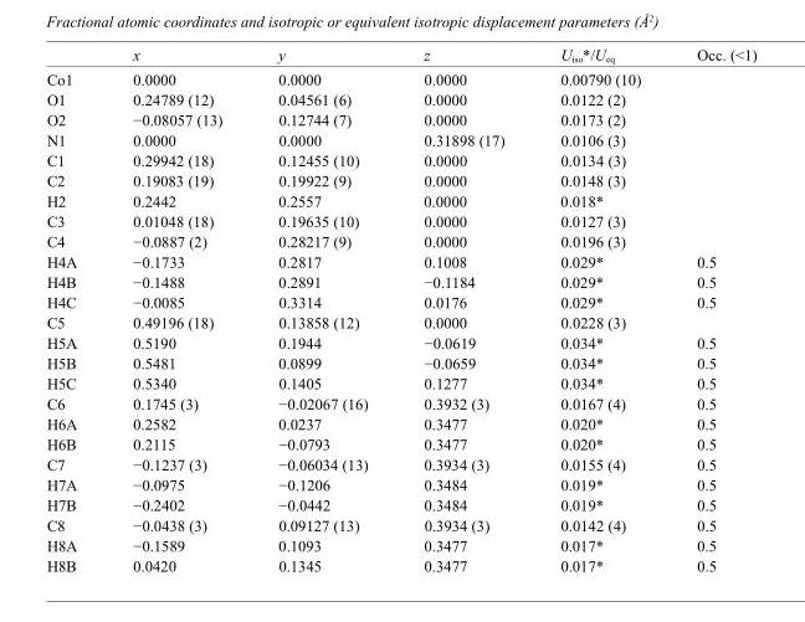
<table><thead><tr><td></td><td>x</td><td>y</td><td>z</td><td>U<sub>iso</sub>*/U<sub>eq</sub></td><td>Occ. (&lt;1)</td></tr></thead><tbody><tr><td>Co1</td><td>0.0000</td><td>0.0000</td><td>0.0000</td><td>0.00790 (10)</td><td></td></tr><tr><td>O1</td><td>0.24789 (12)</td><td>0.04561 (6)</td><td>0.0000</td><td>0.0122 (2)</td><td></td></tr><tr><td>O2</td><td>−0.08057 (13)</td><td>0.12744 (7)</td><td>0.0000</td><td>0.0173 (2)</td><td></td></tr><tr><td>N1</td><td>0.0000</td><td>0.0000</td><td>0.31898 (17)</td><td>0.0106 (3)</td><td></td></tr><tr><td>C1</td><td>0.29942 (18)</td><td>0.12455 (10)</td><td>0.0000</td><td>0.0134 (3)</td><td></td></tr><tr><td>C2</td><td>0.19083 (19)</td><td>0.19922 (9)</td><td>0.0000</td><td>0.0148 (3)</td><td></td></tr><tr><td>H2</td><td>0.2442</td><td>0.2557</td><td>0.0000</td><td>0.018*</td><td></td></tr><tr><td>C3</td><td>0.01048 (18)</td><td>0.19635 (10)</td><td>0.0000</td><td>0.0127 (3)</td><td></td></tr><tr><td>C4</td><td>−0.0887 (2)</td><td>0.28217 (9)</td><td>0.0000</td><td>0.0196 (3)</td><td></td></tr><tr><td>H4A</td><td>−0.1733</td><td>0.2817</td><td>0.1008</td><td>0.029*</td><td>0.5</td></tr><tr><td>H4B</td><td>−0.1488</td><td>0.2891</td><td>−0.1184</td><td>0.029*</td><td>0.5</td></tr><tr><td>H4C</td><td>−0.0085</td><td>0.3314</td><td>0.0176</td><td>0.029*</td><td>0.5</td></tr><tr><td>C5</td><td>0.49196 (18)</td><td>0.13858 (12)</td><td>0.0000</td><td>0.0228 (3)</td><td></td></tr><tr><td>H5A</td><td>0.5190</td><td>0.1944</td><td>−0.0619</td><td>0.034*</td><td>0.5</td></tr><tr><td>H5B</td><td>0.5481</td><td>0.0899</td><td>−0.0659</td><td>0.034*</td><td>0.5</td></tr><tr><td>H5C</td><td>0.5340</td><td>0.1405</td><td>0.1277</td><td>0.034*</td><td>0.5</td></tr><tr><td>C6</td><td>0.1745 (3)</td><td>−0.02067 (16)</td><td>0.3932 (3)</td><td>0.0167 (4)</td><td>0.5</td></tr><tr><td>H6A</td><td>0.2582</td><td>0.0237</td><td>0.3477</td><td>0.020*</td><td>0.5</td></tr><tr><td>H6B</td><td>0.2115</td><td>−0.0793</td><td>0.3477</td><td>0.020*</td><td>0.5</td></tr><tr><td>C7</td><td>−0.1237 (3)</td><td>−0.06034 (13)</td><td>0.3934 (3)</td><td>0.0155 (4)</td><td>0.5</td></tr><tr><td>H7A</td><td>−0.0975</td><td>−0.1206</td><td>0.3484</td><td>0.019*</td><td>0.5</td></tr><tr><td>H7B</td><td>−0.2402</td><td>−0.0442</td><td>0.3484</td><td>0.019*</td><td>0.5</td></tr><tr><td>C8</td><td>−0.0438 (3)</td><td>0.09127 (13)</td><td>0.3934 (3)</td><td>0.0142 (4)</td><td>0.5</td></tr><tr><td>H8A</td><td>−0.1589</td><td>0.1093</td><td>0.3477</td><td>0.017*</td><td>0.5</td></tr><tr><td>H8B</td><td>0.0420</td><td>0.1345</td><td>0.3477</td><td>0.017*</td><td>0.5</td></tr></tbody></table>